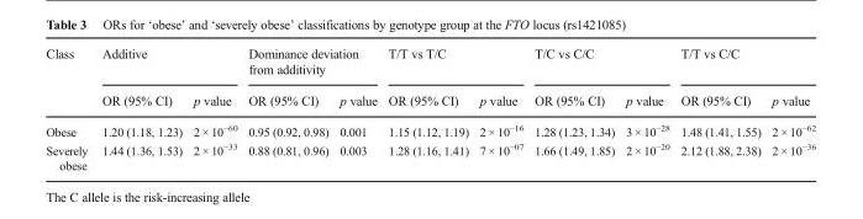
<table><thead><tr><td rowspan="2">Class</td><td colspan="2">Additive</td><td colspan="2">Dominance deviation from additivity</td><td colspan="2">T/T vs T/C</td><td colspan="2">T/C vs C/C</td><td colspan="2">T/T vs C/C</td></tr><tr><td>OR (95% CI)</td><td>p value</td><td>OR (95% CI)</td><td>p value</td><td>OR (95% CI)</td><td>p value</td><td>OR (95% CI)</td><td>p value</td><td>OR (95% CI)</td><td>p value</td></tr></thead><tbody><tr><td>Obese</td><td>1.20 (1.18, 1.23)</td><td>2 × 10<sup>−60</sup></td><td>0.95 (0.92, 0.98)</td><td>0.001</td><td>1.15 (1.12, 1.19)</td><td>2 × 10<sup>−16</sup></td><td>1.28 (1.23, 1.34)</td><td>3 × 10<sup>−28</sup></td><td>1.48 (1.41, 1.55)</td><td>2 × 10<sup>−62</sup></td></tr><tr><td>Severely obese</td><td>1.44 (1.36, 1.53)</td><td>2 × 10<sup>−33</sup></td><td>0.88 (0.81, 0.96)</td><td>0.003</td><td>1.28 (1.16, 1.41)</td><td>7 × 10<sup>−07</sup></td><td>1.66 (1.49, 1.85)</td><td>2 × 10<sup>−20</sup></td><td>2.12 (1.88, 2.38)</td><td>2 × 10<sup>−36</sup></td></tr></tbody></table>